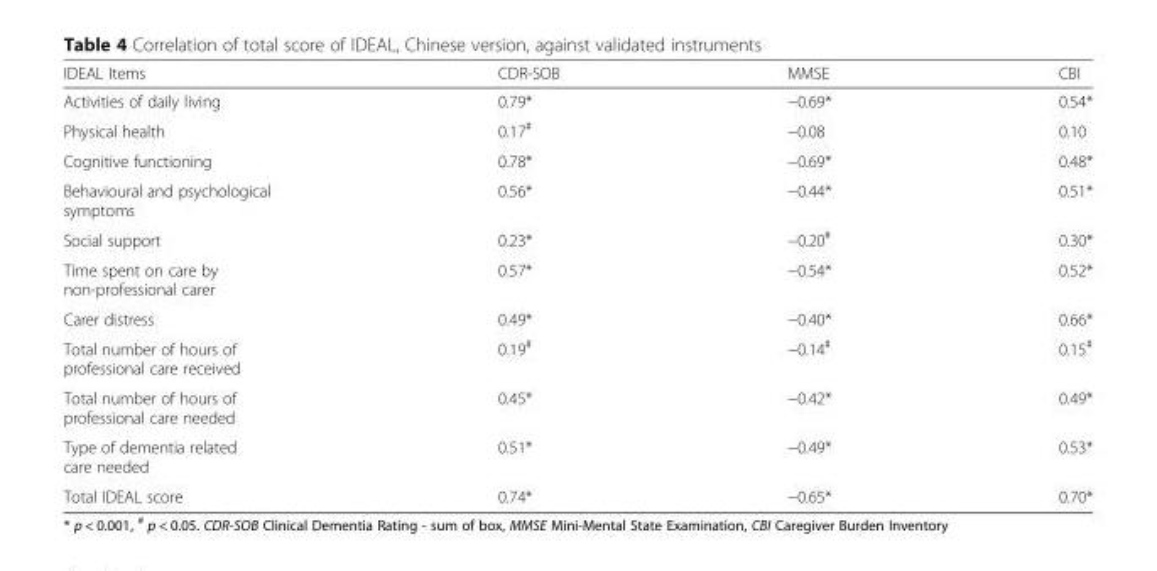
<table><thead><tr><td>IDEAL Items</td><td>CDR-SOB</td><td>MMSE</td><td>CBI</td></tr></thead><tbody><tr><td>Activities of daily living</td><td>0.79*</td><td>−0.69*</td><td>0.54*</td></tr><tr><td>Physical health</td><td>0.17<sup>#</sup></td><td>−0.08</td><td>0.10</td></tr><tr><td>Cognitive functioning</td><td>0.78*</td><td>−0.69*</td><td>0.48*</td></tr><tr><td>Behavioural and psychological symptoms</td><td>0.56*</td><td>−0.44*</td><td>0.51*</td></tr><tr><td>Social support</td><td>0.23*</td><td>−0.20<sup>#</sup></td><td>0.30*</td></tr><tr><td>Time spent on care by non-professional carer</td><td>0.57*</td><td>−0.54*</td><td>0.52*</td></tr><tr><td>Carer distress</td><td>0.49*</td><td>−0.40*</td><td>0.66*</td></tr><tr><td>Total number of hours of professional care received</td><td>0.19<sup>#</sup></td><td>−0.14<sup>#</sup></td><td>0.15<sup>#</sup></td></tr><tr><td>Total number of hours of professional care needed</td><td>0.45*</td><td>−0.42*</td><td>0.49*</td></tr><tr><td>Type of dementia related care needed</td><td>0.51*</td><td>−0.49*</td><td>0.53*</td></tr><tr><td>Total IDEAL score</td><td>0.74*</td><td>−0.65*</td><td>0.70*</td></tr></tbody></table>